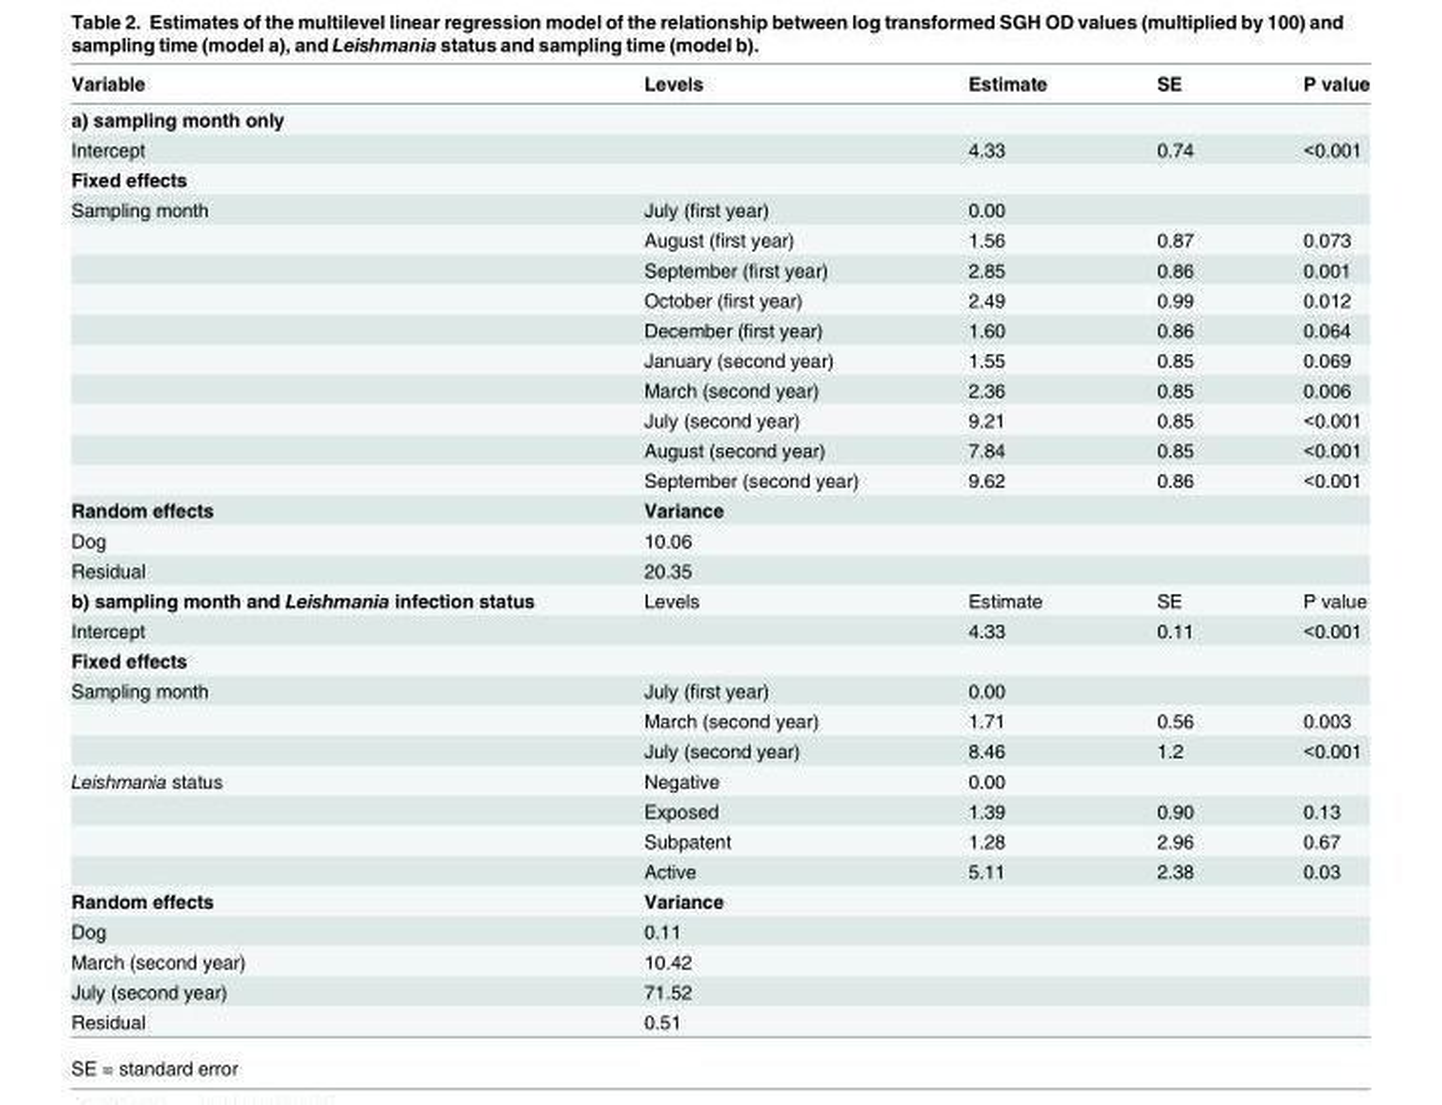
<table><thead><tr><td>Variable</td><td>Levels</td><td>Estimate</td><td>SE</td><td>P value</td></tr></thead><tbody><tr><td colspan="5">a) sampling month only</td></tr><tr><td>Intercept</td><td></td><td>4.33</td><td>0.74</td><td>&lt;0.001</td></tr><tr><td colspan="5">Fixed effects</td></tr><tr><td rowspan="10">Sampling month</td><td>July (first year)</td><td>0.00</td><td></td><td></td></tr><tr><td>August (first year)</td><td>1.56</td><td>0.87</td><td>0.073</td></tr><tr><td>September (first year)</td><td>2.85</td><td>0.86</td><td>0.001</td></tr><tr><td>October (first year)</td><td>2.49</td><td>0.99</td><td>0.012</td></tr><tr><td>December (first year)</td><td>1.60</td><td>0.86</td><td>0.064</td></tr><tr><td>January (second year)</td><td>1.55</td><td>0.85</td><td>0.069</td></tr><tr><td>March (second year)</td><td>2.36</td><td>0.85</td><td>0.006</td></tr><tr><td>July (second year)</td><td>9.21</td><td>0.85</td><td>&lt;0.001</td></tr><tr><td>August (second year)</td><td>7.84</td><td>0.85</td><td>&lt;0.001</td></tr><tr><td>September (second year)</td><td>9.62</td><td>0.86</td><td>&lt;0.001</td></tr><tr><td>Random effects</td><td>Variance</td><td></td><td></td><td></td></tr><tr><td>Dog</td><td>10.06</td><td></td><td></td><td></td></tr><tr><td>Residual</td><td>20.35</td><td></td><td></td><td></td></tr><tr><td>b) sampling month and Leishmania infection status</td><td>Levels</td><td>Estimate</td><td>SE</td><td>P value</td></tr><tr><td>Intercept</td><td></td><td>4.33</td><td>0.11</td><td>&lt;0.001</td></tr><tr><td colspan="5">Fixed effects</td></tr><tr><td rowspan="3">Sampling month</td><td>July (first year)</td><td>0.00</td><td></td><td></td></tr><tr><td>March (second year)</td><td>1.71</td><td>0.56</td><td>0.003</td></tr><tr><td>July (second year)</td><td>8.46</td><td>1.2</td><td>&lt;0.001</td></tr><tr><td rowspan="4">Leishmania status</td><td>Negative</td><td>0.00</td><td></td><td></td></tr><tr><td>Exposed</td><td>1.39</td><td>0.90</td><td>0.13</td></tr><tr><td>Subpatent</td><td>1.28</td><td>2.96</td><td>0.67</td></tr><tr><td>Active</td><td>5.11</td><td>2.38</td><td>0.03</td></tr><tr><td>Random effects</td><td>Variance</td><td></td><td></td><td></td></tr><tr><td>Dog</td><td>0.11</td><td></td><td></td><td></td></tr><tr><td>March (second year)</td><td>10.42</td><td></td><td></td><td></td></tr><tr><td>July (second year)</td><td>71.52</td><td></td><td></td><td></td></tr><tr><td>Residual</td><td>0.51</td><td></td><td></td><td></td></tr></tbody></table>